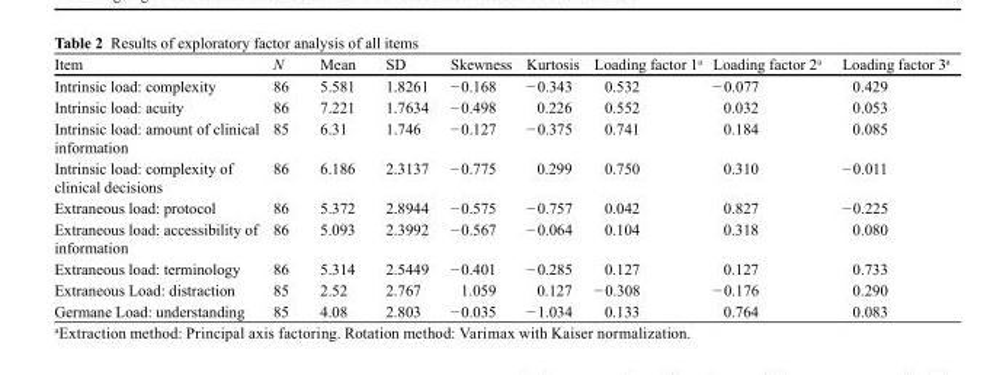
<table><thead><tr><td>Item</td><td>N</td><td>Mean</td><td>SD</td><td>Skewness</td><td>Kurtosis</td><td>Loading factor 1<sup>a</sup></td><td>Loading factor 2<sup>a</sup></td><td>Loading factor 3<sup>a</sup></td></tr></thead><tbody><tr><td>Intrinsic load: complexity</td><td>86</td><td>5.581</td><td>1.8261</td><td>− 0.168</td><td>− 0.343</td><td>0.532</td><td>− 0.077</td><td>0.429</td></tr><tr><td>Intrinsic load: acuity</td><td>86</td><td>7.221</td><td>1.7634</td><td>− 0.498</td><td>0.226</td><td>0.552</td><td>0.032</td><td>0.053</td></tr><tr><td>Intrinsic load: amount of clinical information</td><td>85</td><td>6.31</td><td>1.746</td><td>− 0.127</td><td>− 0.375</td><td>0.741</td><td>0.184</td><td>0.085</td></tr><tr><td>Intrinsic load: complexity of clinical decisions</td><td>86</td><td>6.186</td><td>2.3137</td><td>− 0.775</td><td>0.299</td><td>0.750</td><td>0.310</td><td>− 0.011</td></tr><tr><td>Extraneous load: protocol</td><td>86</td><td>5.372</td><td>2.8944</td><td>− 0.575</td><td>− 0.757</td><td>0.042</td><td>0.827</td><td>− 0.225</td></tr><tr><td>Extraneous load: accessibility of information</td><td>86</td><td>5.093</td><td>2.3992</td><td>− 0.567</td><td>− 0.064</td><td>0.104</td><td>0.318</td><td>0.080</td></tr><tr><td>Extraneous load: terminology</td><td>86</td><td>5.314</td><td>2.5449</td><td>− 0.401</td><td>− 0.285</td><td>0.127</td><td>0.127</td><td>0.733</td></tr><tr><td>Extraneous Load: distraction</td><td>85</td><td>2.52</td><td>2.767</td><td>1.059</td><td>0.127</td><td>− 0.308</td><td>− 0.176</td><td>0.290</td></tr><tr><td>Germane Load: understanding</td><td>85</td><td>4.08</td><td>2.803</td><td>− 0.035</td><td>− 1.034</td><td>0.133</td><td>0.764</td><td>0.083</td></tr></tbody></table>